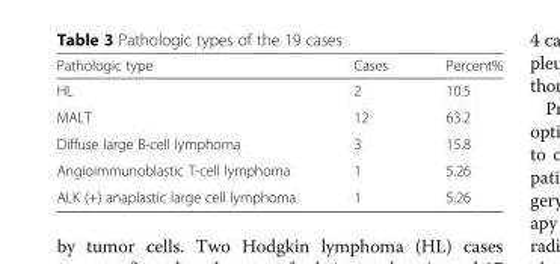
<table><thead><tr><td>Pathologic type</td><td>Cases</td><td>Percent%</td></tr></thead><tbody><tr><td>HL</td><td>2</td><td>10.5</td></tr><tr><td>MALT</td><td>12</td><td>63.2</td></tr><tr><td>Diffuse large B-cell lymphoma</td><td>3</td><td>15.8</td></tr><tr><td>Angioimmunoblastic T-cell lymphoma</td><td>1</td><td>5.26</td></tr><tr><td>ALK (+) anaplastic large cell lymphoma</td><td>1</td><td>5.26</td></tr></tbody></table>